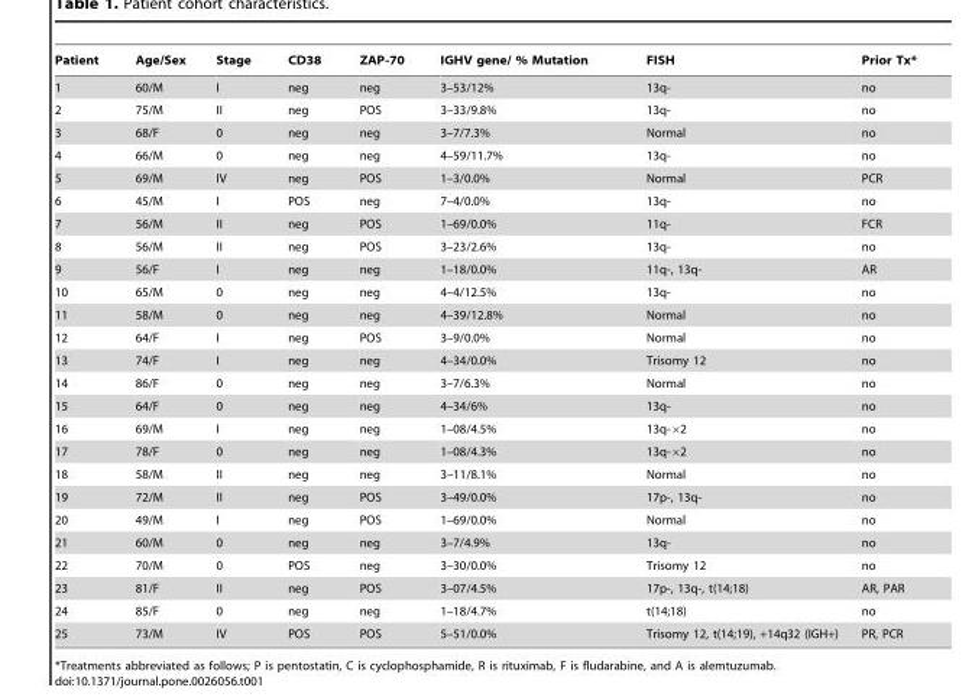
<table><thead><tr><td>Patient</td><td>Age/Sex</td><td>Stage</td><td>CD38</td><td>ZAP-70</td><td>IGHV gene/ % Mutation</td><td>FISH</td><td>Prior Tx*</td></tr></thead><tbody><tr><td>1</td><td>60/M</td><td>I</td><td>neg</td><td>neg</td><td>3–53/12%</td><td>13q-</td><td>no</td></tr><tr><td>2</td><td>75/M</td><td>II</td><td>neg</td><td>POS</td><td>3–33/9.8%</td><td>13q-</td><td>no</td></tr><tr><td>3</td><td>68/F</td><td>0</td><td>neg</td><td>neg</td><td>3–7/7.3%</td><td>Normal</td><td>no</td></tr><tr><td>4</td><td>66/M</td><td>0</td><td>neg</td><td>neg</td><td>4–59/11.7%</td><td>13q-</td><td>no</td></tr><tr><td>5</td><td>69/M</td><td>IV</td><td>neg</td><td>POS</td><td>1–3/0.0%</td><td>Normal</td><td>PCR</td></tr><tr><td>6</td><td>45/M</td><td>I</td><td>POS</td><td>neg</td><td>7–4/0.0%</td><td>13q-</td><td>no</td></tr><tr><td>7</td><td>56/M</td><td>II</td><td>neg</td><td>POS</td><td>1–69/0.0%</td><td>11q-</td><td>FCR</td></tr><tr><td>8</td><td>56/M</td><td>II</td><td>neg</td><td>POS</td><td>3–23/2.6%</td><td>13q-</td><td>no</td></tr><tr><td>9</td><td>56/F</td><td>I</td><td>neg</td><td>neg</td><td>1–18/0.0%</td><td>11q-, 13q-</td><td>AR</td></tr><tr><td>10</td><td>65/M</td><td>0</td><td>neg</td><td>neg</td><td>4–4/12.5%</td><td>13q-</td><td>no</td></tr><tr><td>11</td><td>58/M</td><td>0</td><td>neg</td><td>neg</td><td>4–39/12.8%</td><td>Normal</td><td>no</td></tr><tr><td>12</td><td>64/F</td><td>I</td><td>neg</td><td>POS</td><td>3–9/0.0%</td><td>Normal</td><td>no</td></tr><tr><td>13</td><td>74/F</td><td>I</td><td>neg</td><td>neg</td><td>4–34/0.0%</td><td>Trisomy 12</td><td>no</td></tr><tr><td>14</td><td>86/F</td><td>0</td><td>neg</td><td>neg</td><td>3–7/6.3%</td><td>Normal</td><td>no</td></tr><tr><td>15</td><td>64/F</td><td>0</td><td>neg</td><td>neg</td><td>4–34/6%</td><td>13q-</td><td>no</td></tr><tr><td>16</td><td>69/M</td><td>I</td><td>neg</td><td>neg</td><td>1–08/4.5%</td><td>13q-×2</td><td>no</td></tr><tr><td>17</td><td>78/F</td><td>0</td><td>neg</td><td>neg</td><td>1–08/4.3%</td><td>13q-×2</td><td>no</td></tr><tr><td>18</td><td>58/M</td><td>II</td><td>neg</td><td>neg</td><td>3–11/8.1%</td><td>Normal</td><td>no</td></tr><tr><td>19</td><td>72/M</td><td>II</td><td>neg</td><td>POS</td><td>3–49/0.0%</td><td>17p-, 13q-</td><td>no</td></tr><tr><td>20</td><td>49/M</td><td>I</td><td>neg</td><td>POS</td><td>1–69/0.0%</td><td>Normal</td><td>no</td></tr><tr><td>21</td><td>60/M</td><td>0</td><td>neg</td><td>neg</td><td>3–7/4.9%</td><td>13q-</td><td>no</td></tr><tr><td>22</td><td>70/M</td><td>0</td><td>POS</td><td>neg</td><td>3–30/0.0%</td><td>Trisomy 12</td><td>no</td></tr><tr><td>23</td><td>81/F</td><td>II</td><td>neg</td><td>POS</td><td>3–07/4.5%</td><td>17p-, 13q-, t(14;18)</td><td>AR, PAR</td></tr><tr><td>24</td><td>85/F</td><td>0</td><td>neg</td><td>neg</td><td>1–18/4.7%</td><td>t(14;18)</td><td>no</td></tr><tr><td>25</td><td>73/M</td><td>IV</td><td>POS</td><td>POS</td><td>5–51/0.0%</td><td>Trisomy 12, t(14;19), +14q32 (IGH+)</td><td>PR, PCR</td></tr></tbody></table>